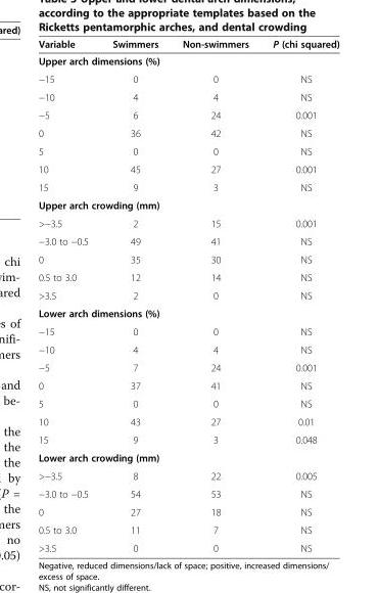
<table><thead><tr><td>Variable</td><td>Swimmers</td><td>Non-swimmers</td><td>P (chi squared)</td></tr></thead><tbody><tr><td colspan="4">Upper arch dimensions (%)</td></tr><tr><td>−15</td><td>0</td><td>0</td><td>NS</td></tr><tr><td>−10</td><td>4</td><td>4</td><td>NS</td></tr><tr><td>−5</td><td>6</td><td>24</td><td>0.001</td></tr><tr><td>0</td><td>36</td><td>42</td><td>NS</td></tr><tr><td>5</td><td>0</td><td>0</td><td>NS</td></tr><tr><td>10</td><td>45</td><td>27</td><td>0.001</td></tr><tr><td>15</td><td>9</td><td>3</td><td>NS</td></tr><tr><td colspan="4">Upper arch crowding (mm)</td></tr><tr><td>&gt;−3.5</td><td>2</td><td>15</td><td>0.001</td></tr><tr><td>−3.0 to −0.5</td><td>49</td><td>41</td><td>NS</td></tr><tr><td>0</td><td>35</td><td>30</td><td>NS</td></tr><tr><td>0.5 to 3.0</td><td>12</td><td>14</td><td>NS</td></tr><tr><td>&gt;3.5</td><td>2</td><td>0</td><td>NS</td></tr><tr><td colspan="4">Lower arch dimensions (%)</td></tr><tr><td>−15</td><td>0</td><td>0</td><td>NS</td></tr><tr><td>−10</td><td>4</td><td>4</td><td>NS</td></tr><tr><td>−5</td><td>7</td><td>24</td><td>0.001</td></tr><tr><td>0</td><td>37</td><td>41</td><td>NS</td></tr><tr><td>5</td><td>0</td><td>0</td><td>NS</td></tr><tr><td>10</td><td>43</td><td>27</td><td>0.01</td></tr><tr><td>15</td><td>9</td><td>3</td><td>0.048</td></tr><tr><td colspan="4">Lower arch crowding (mm)</td></tr><tr><td>&gt;−3.5</td><td>8</td><td>22</td><td>0.005</td></tr><tr><td>−3.0 to −0.5</td><td>54</td><td>53</td><td>NS</td></tr><tr><td>0</td><td>27</td><td>18</td><td>NS</td></tr><tr><td>0.5 to 3.0</td><td>11</td><td>7</td><td>NS</td></tr><tr><td>&gt;3.5</td><td>0</td><td>0</td><td>NS</td></tr></tbody></table>